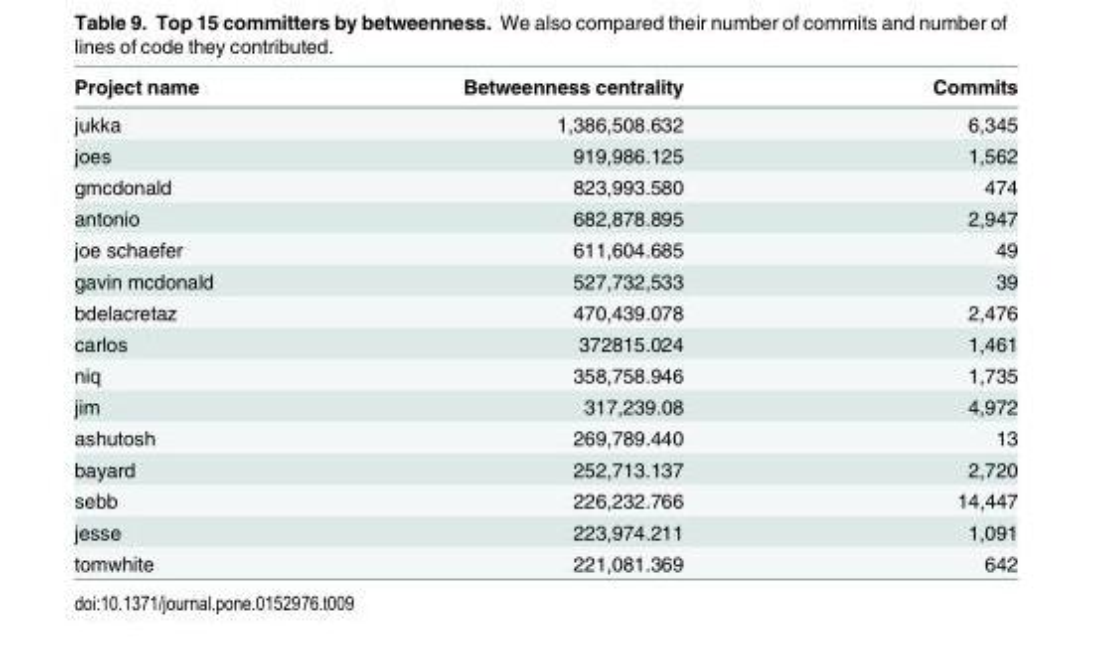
<table><thead><tr><td>Project name</td><td>Betweenness centrality</td><td>Commits</td></tr></thead><tbody><tr><td>jukka</td><td>1,386,508.632</td><td>6,345</td></tr><tr><td>joes</td><td>919,986.125</td><td>1,562</td></tr><tr><td>gmcdonald</td><td>823,993.580</td><td>474</td></tr><tr><td>antonio</td><td>682,878.895</td><td>2,947</td></tr><tr><td>joe schaefer</td><td>611,604.685</td><td>49</td></tr><tr><td>gavin mcdonald</td><td>527,732,533</td><td>39</td></tr><tr><td>bdelacretaz</td><td>470,439.078</td><td>2,476</td></tr><tr><td>carlos</td><td>372815.024</td><td>1,461</td></tr><tr><td>niq</td><td>358,758.946</td><td>1,735</td></tr><tr><td>jim</td><td>317,239.08</td><td>4,972</td></tr><tr><td>ashutosh</td><td>269,789.440</td><td>13</td></tr><tr><td>bayard</td><td>252,713.137</td><td>2,720</td></tr><tr><td>sebb</td><td>226,232.766</td><td>14,447</td></tr><tr><td>jesse</td><td>223,974.211</td><td>1,091</td></tr><tr><td>tomwhite</td><td>221,081.369</td><td>642</td></tr></tbody></table>